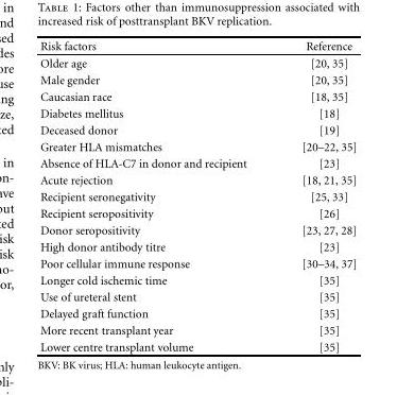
<table><thead><tr><td>Risk factors</td><td>Reference</td></tr></thead><tbody><tr><td>Older age</td><td>[20, 35]</td></tr><tr><td>Male gender</td><td>[20, 35]</td></tr><tr><td>Caucasian race</td><td>[18, 35]</td></tr><tr><td>Diabetes mellitus</td><td>[18]</td></tr><tr><td>Deceased donor</td><td>[19]</td></tr><tr><td>Greater HLA mismatches</td><td>[20–22, 35]</td></tr><tr><td>Absence of HLA-C7 in donor and recipient</td><td>[23]</td></tr><tr><td>Acute rejection</td><td>[18, 21, 35]</td></tr><tr><td>Recipient seronegativity</td><td>[25, 33]</td></tr><tr><td>Recipient seropositivity</td><td>[26]</td></tr><tr><td>Donor seropositivity</td><td>[23, 27, 28]</td></tr><tr><td>High donor antibody titre</td><td>[23]</td></tr><tr><td>Poor cellular immune response</td><td>[30–34, 37]</td></tr><tr><td>Longer cold ischemic time</td><td>[35]</td></tr><tr><td>Use of ureteral stent</td><td>[35]</td></tr><tr><td>Delayed graft function</td><td>[35]</td></tr><tr><td>More recent transplant year</td><td>[35]</td></tr><tr><td>Lower centre transplant volume</td><td>[35]</td></tr></tbody></table>